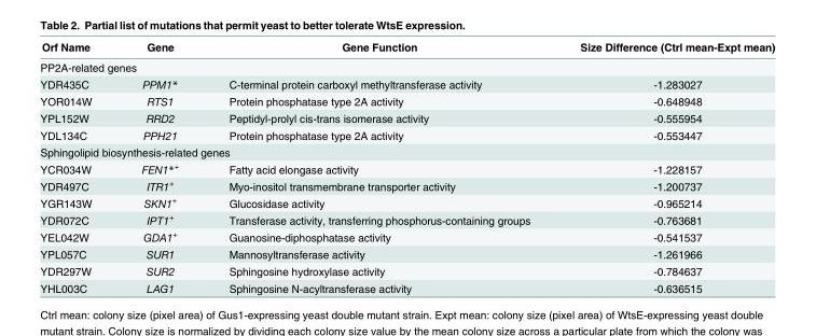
<table><thead><tr><td>Orf Name</td><td>Gene</td><td>Gene Function</td><td>Size Difference (Ctrl mean-Expt mean)</td></tr></thead><tbody><tr><td colspan="4">PP2A-related genes</td></tr><tr><td>YDR435C</td><td>PPM1*</td><td>C-terminal protein carboxyl methyltransferase activity</td><td>-1.283027</td></tr><tr><td>YOR014W</td><td>RTS1</td><td>Protein phosphatase type 2A activity</td><td>-0.648948</td></tr><tr><td>YPL152W</td><td>RRD2</td><td>Peptidyl-prolyl cis-trans isomerase activity</td><td>-0.555954</td></tr><tr><td>YDL134C</td><td>PPH21</td><td>Protein phosphatase type 2A activity</td><td>-0.553447</td></tr><tr><td colspan="4">Sphingolipid biosynthesis-related genes</td></tr><tr><td>YCR034W</td><td>FEN1*<sup>+</sup></td><td>Fatty acid elongase activity</td><td>-1.228157</td></tr><tr><td>YDR497C</td><td>ITR1<sup>+</sup></td><td>Myo-inositol transmembrane transporter activity</td><td>-1.200737</td></tr><tr><td>YGR143W</td><td>SKN1<sup>+</sup></td><td>Glucosidase activity</td><td>-0.965214</td></tr><tr><td>YDR072C</td><td>IPT1<sup>+</sup></td><td>Transferase activity, transferring phosphorus-containing groups</td><td>-0.763681</td></tr><tr><td>YEL042W</td><td>GDA1<sup>+</sup></td><td>Guanosine-diphosphatase activity</td><td>-0.541537</td></tr><tr><td>YPL057C</td><td>SUR1</td><td>Mannosyltransferase activity</td><td>-1.261966</td></tr><tr><td>YDR297W</td><td>SUR2</td><td>Sphingosine hydroxylase activity</td><td>-0.784637</td></tr><tr><td>YHL003C</td><td>LAG1</td><td>Sphingosine N-acyltransferase activity</td><td>-0.636515</td></tr></tbody></table>